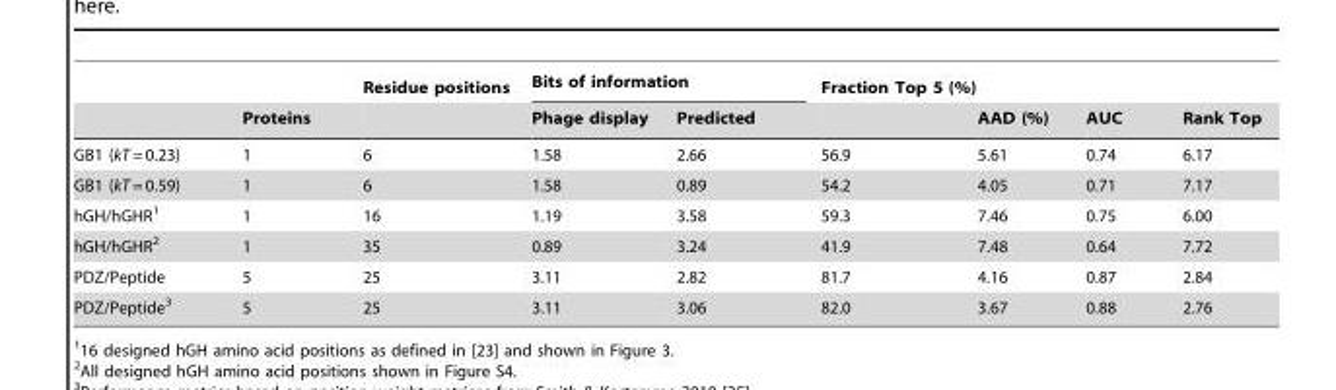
<table><thead><tr><td rowspan="2"></td><td rowspan="2">Proteins</td><td rowspan="2">Residue positions</td><td colspan="2">Bits of information</td><td rowspan="2">Fraction Top 5 (%)</td><td rowspan="2">AAD (%)</td><td rowspan="2">AUC</td><td rowspan="2">Rank Top</td></tr><tr><td>Phage display</td><td>Predicted</td></tr></thead><tbody><tr><td>GB1 (kT = 0.23)</td><td>1</td><td>6</td><td>1.58</td><td>2.66</td><td>56.9</td><td>5.61</td><td>0.74</td><td>6.17</td></tr><tr><td>GB1 (kT = 0.59)</td><td>1</td><td>6</td><td>1.58</td><td>0.89</td><td>54.2</td><td>4.05</td><td>0.71</td><td>7.17</td></tr><tr><td>hGH/hGHR<sup>1</sup></td><td>1</td><td>16</td><td>1.19</td><td>3.58</td><td>59.3</td><td>7.46</td><td>0.75</td><td>6.00</td></tr><tr><td>hGH/hGHR<sup>2</sup></td><td>1</td><td>35</td><td>0.89</td><td>3.24</td><td>41.9</td><td>7.48</td><td>0.64</td><td>7.72</td></tr><tr><td>PDZ/Peptide</td><td>5</td><td>25</td><td>3.11</td><td>2.82</td><td>81.7</td><td>4.16</td><td>0.87</td><td>2.84</td></tr><tr><td>PDZ/Peptide<sup>3</sup></td><td>5</td><td>25</td><td>3.11</td><td>3.06</td><td>82.0</td><td>3.67</td><td>0.88</td><td>2.76</td></tr></tbody></table>